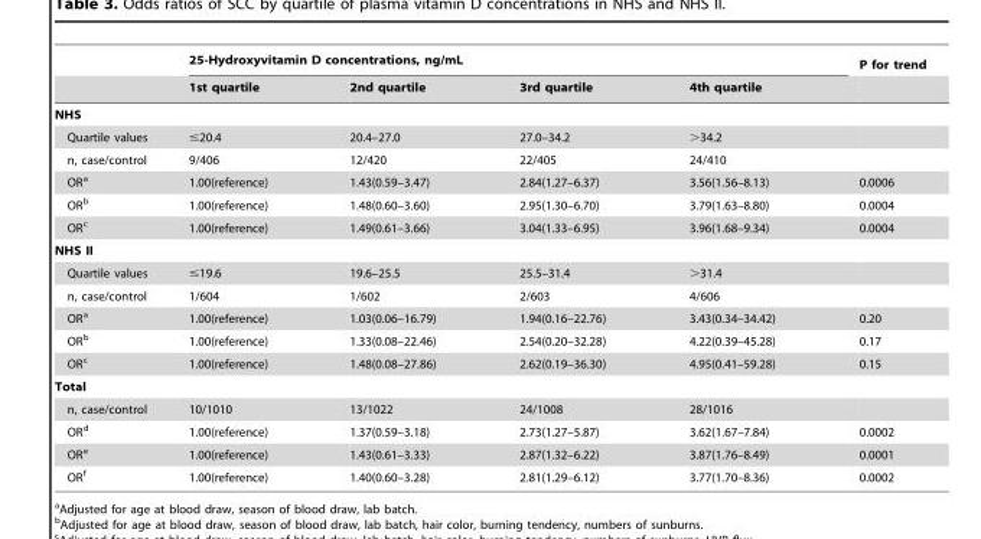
<table><thead><tr><td rowspan="2"></td><td colspan="4">25-Hydroxyvitamin D concentrations, ng/mL</td><td rowspan="2">P for trend</td></tr><tr><td>1st quartile</td><td>2nd quartile</td><td>3rd quartile</td><td>4th quartile</td></tr></thead><tbody><tr><td colspan="6">NHS</td></tr><tr><td>Quartile values</td><td>≤20.4</td><td>20.4–27.0</td><td>27.0–34.2</td><td>&gt;34.2</td><td></td></tr><tr><td>n, case/control</td><td>9/406</td><td>12/420</td><td>22/405</td><td>24/410</td><td></td></tr><tr><td>OR<sup>a</sup></td><td>1.00(reference)</td><td>1.43(0.59–3.47)</td><td>2.84(1.27–6.37)</td><td>3.56(1.56–8.13)</td><td>0.0006</td></tr><tr><td>OR<sup>b</sup></td><td>1.00(reference)</td><td>1.48(0.60–3.60)</td><td>2.95(1.30–6.70)</td><td>3.79(1.63–8.80)</td><td>0.0004</td></tr><tr><td>OR<sup>c</sup></td><td>1.00(reference)</td><td>1.49(0.61–3.66)</td><td>3.04(1.33–6.95)</td><td>3.96(1.68–9.34)</td><td>0.0004</td></tr><tr><td colspan="6">NHS II</td></tr><tr><td>Quartile values</td><td>≤19.6</td><td>19.6–25.5</td><td>25.5–31.4</td><td>&gt;31.4</td><td></td></tr><tr><td>n, case/control</td><td>1/604</td><td>1/602</td><td>2/603</td><td>4/606</td><td></td></tr><tr><td>OR<sup>a</sup></td><td>1.00(reference)</td><td>1.03(0.06–16.79)</td><td>1.94(0.16–22.76)</td><td>3.43(0.34–34.42)</td><td>0.20</td></tr><tr><td>OR<sup>b</sup></td><td>1.00(reference)</td><td>1.33(0.08–22.46)</td><td>2.54(0.20–32.28)</td><td>4.22(0.39–45.28)</td><td>0.17</td></tr><tr><td>OR<sup>c</sup></td><td>1.00(reference)</td><td>1.48(0.08–27.86)</td><td>2.62(0.19–36.30)</td><td>4.95(0.41–59.28)</td><td>0.15</td></tr><tr><td colspan="6">Total</td></tr><tr><td>n, case/control</td><td>10/1010</td><td>13/1022</td><td>24/1008</td><td>28/1016</td><td></td></tr><tr><td>OR<sup>d</sup></td><td>1.00(reference)</td><td>1.37(0.59–3.18)</td><td>2.73(1.27–5.87)</td><td>3.62(1.67–7.84)</td><td>0.0002</td></tr><tr><td>OR<sup>e</sup></td><td>1.00(reference)</td><td>1.43(0.61–3.33)</td><td>2.87(1.32–6.22)</td><td>3.87(1.76–8.49)</td><td>0.0001</td></tr><tr><td>OR<sup>f</sup></td><td>1.00(reference)</td><td>1.40(0.60–3.28)</td><td>2.81(1.29–6.12)</td><td>3.77(1.70–8.36)</td><td>0.0002</td></tr></tbody></table>